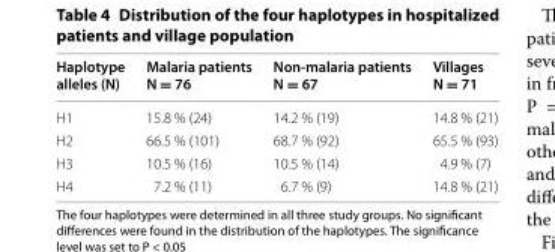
<table><thead><tr><td>Haplotype alleles (N)</td><td>Malaria patients N = 76</td><td>Non-malaria patients N = 67</td><td>Villages N = 71</td></tr></thead><tbody><tr><td>H1</td><td>15.8 % (24)</td><td>14.2 % (19)</td><td>14.8 % (21)</td></tr><tr><td>H2</td><td>66.5 % (101)</td><td>68.7 % (92)</td><td>65.5 % (93)</td></tr><tr><td>H3</td><td>10.5 % (16)</td><td>10.5 % (14)</td><td>4.9 % (7)</td></tr><tr><td>H4</td><td>7.2 % (11)</td><td>6.7 % (9)</td><td>14.8 % (21)</td></tr></tbody></table>